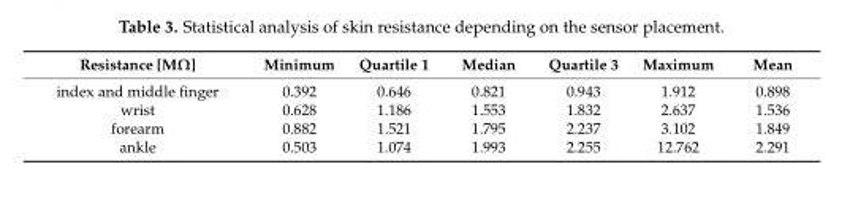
<table><thead><tr><td>Resistance [MΩ]</td><td>Minimum</td><td>Quartile 1</td><td>Median</td><td>Quartile 3</td><td>Maximum</td><td>Mean</td></tr></thead><tbody><tr><td>index and middle finger</td><td>0.392</td><td>0.646</td><td>0.821</td><td>0.943</td><td>1.912</td><td>0.898</td></tr><tr><td>wrist</td><td>0.628</td><td>1.186</td><td>1.553</td><td>1.832</td><td>2.637</td><td>1.536</td></tr><tr><td>forearm</td><td>0.882</td><td>1.521</td><td>1.795</td><td>2.237</td><td>3.102</td><td>1.849</td></tr><tr><td>ankle</td><td>0.503</td><td>1.074</td><td>1.993</td><td>2.255</td><td>12.762</td><td>2.291</td></tr></tbody></table>